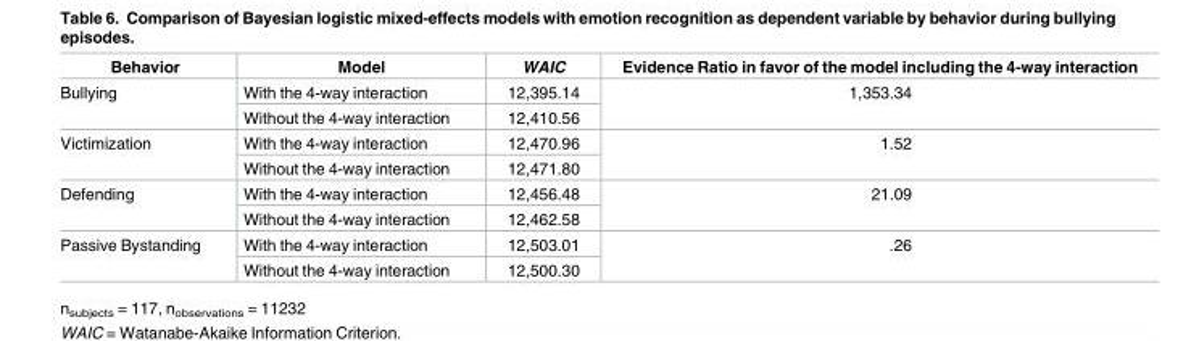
<table><thead><tr><td>Behavior</td><td>Model</td><td>WAIC</td><td>Evidence Ratio in favor of the model including the 4-way interaction</td></tr></thead><tbody><tr><td rowspan="2">Bullying</td><td>With the 4-way interaction</td><td>12,395.14</td><td rowspan="2">1,353.34</td></tr><tr><td>Without the 4-way interaction</td><td>12,410.56</td></tr><tr><td rowspan="2">Victimization</td><td>With the 4-way interaction</td><td>12,470.96</td><td rowspan="2">1.52</td></tr><tr><td>Without the 4-way interaction</td><td>12,471.80</td></tr><tr><td rowspan="2">Defending</td><td>With the 4-way interaction</td><td>12,456.48</td><td rowspan="2">21.09</td></tr><tr><td>Without the 4-way interaction</td><td>12,462.58</td></tr><tr><td rowspan="2">Passive Bystanding</td><td>With the 4-way interaction</td><td>12,503.01</td><td rowspan="2">.26</td></tr><tr><td>Without the 4-way interaction</td><td>12,500.30</td></tr></tbody></table>